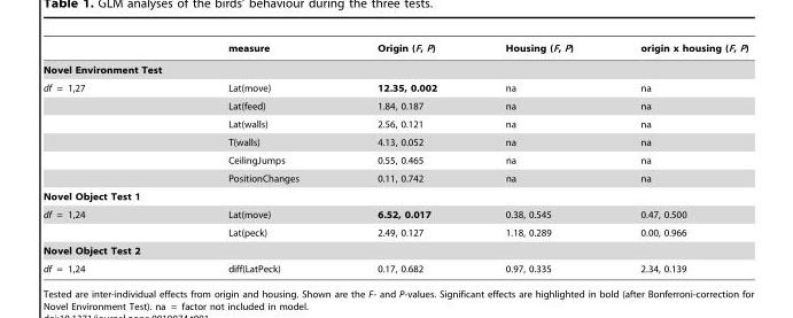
<table><thead><tr><td></td><td>measure</td><td>Origin (F, P)</td><td>Housing (F, P)</td><td>origin x housing (F, P)</td></tr></thead><tbody><tr><td colspan="5">Novel Environment Test</td></tr><tr><td rowspan="6">df = 1,27</td><td>Lat(move)</td><td>12.35, 0.002</td><td>na</td><td>na</td></tr><tr><td>Lat(feed)</td><td>1.84, 0.187</td><td>na</td><td>na</td></tr><tr><td>Lat(walls)</td><td>2.56, 0.121</td><td>na</td><td>na</td></tr><tr><td>T(walls)</td><td>4.13, 0.052</td><td>na</td><td>na</td></tr><tr><td>CeilingJumps</td><td>0.55, 0.465</td><td>na</td><td>na</td></tr><tr><td>PositionChanges</td><td>0.11, 0.742</td><td>na</td><td>na</td></tr><tr><td colspan="5">Novel Object Test 1</td></tr><tr><td rowspan="2">df = 1,24</td><td>Lat(move)</td><td>6.52, 0.017</td><td>0.38, 0.545</td><td>0.47, 0.500</td></tr><tr><td>Lat(peck)</td><td>2.49, 0.127</td><td>1.18, 0.289</td><td>0.00, 0.966</td></tr><tr><td colspan="5">Novel Object Test 2</td></tr><tr><td>df = 1,24</td><td>diff(LatPeck)</td><td>0.17, 0.682</td><td>0.97, 0.335</td><td>2.34, 0.139</td></tr></tbody></table>